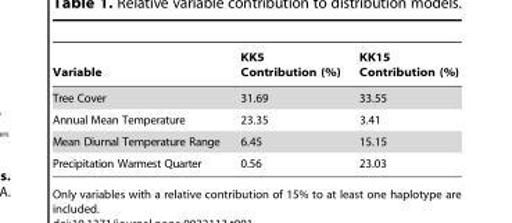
<table><thead><tr><td>Variable</td><td>KK5 Contribution (%)</td><td>KK15 Contribution (%)</td></tr></thead><tbody><tr><td>Tree Cover</td><td>31.69</td><td>33.55</td></tr><tr><td>Annual Mean Temperature</td><td>23.35</td><td>3.41</td></tr><tr><td>Mean Diurnal Temperature Range</td><td>6.45</td><td>15.15</td></tr><tr><td>Precipitation Warmest Quarter</td><td>0.56</td><td>23.03</td></tr></tbody></table>